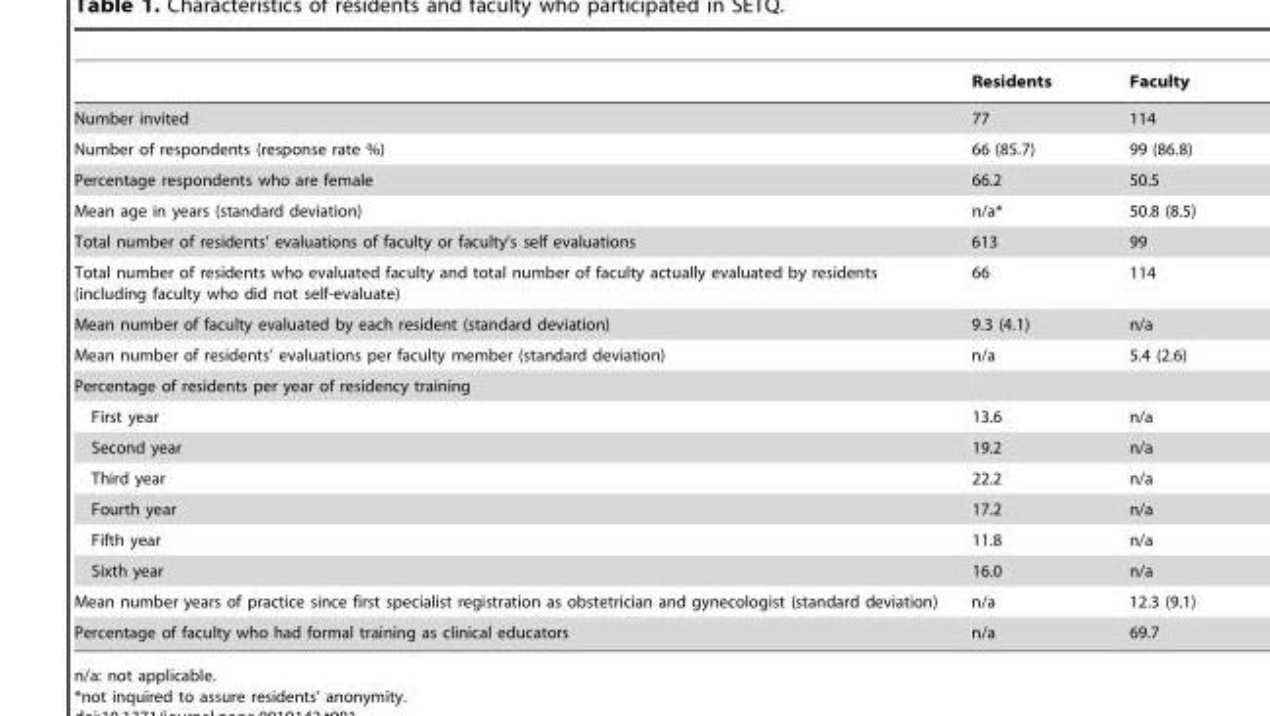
<table><thead><tr><td></td><td>Residents</td><td>Faculty</td></tr></thead><tbody><tr><td>Number invited</td><td>77</td><td>114</td></tr><tr><td>Number of respondents (response rate %)</td><td>66 (85.7)</td><td>99 (86.8)</td></tr><tr><td>Percentage respondents who are female</td><td>66.2</td><td>50.5</td></tr><tr><td>Mean age in years (standard deviation)</td><td>n/a*</td><td>50.8 (8.5)</td></tr><tr><td>Total number of residents’ evaluations of faculty or faculty’s self evaluations</td><td>613</td><td>99</td></tr><tr><td>Total number of residents who evaluated faculty and total number of faculty actually evaluated by residents (including faculty who did not self-evaluate)</td><td>66</td><td>114</td></tr><tr><td>Mean number of faculty evaluated by each resident (standard deviation)</td><td>9.3 (4.1)</td><td>n/a</td></tr><tr><td>Mean number of residents’ evaluations per faculty member (standard deviation)</td><td>n/a</td><td>5.4 (2.6)</td></tr><tr><td colspan="3">Percentage of residents per year of residency training</td></tr><tr><td>First year</td><td>13.6</td><td>n/a</td></tr><tr><td>Second year</td><td>19.2</td><td>n/a</td></tr><tr><td>Third year</td><td>22.2</td><td>n/a</td></tr><tr><td>Fourth year</td><td>17.2</td><td>n/a</td></tr><tr><td>Fifth year</td><td>11.8</td><td>n/a</td></tr><tr><td>Sixth year</td><td>16.0</td><td>n/a</td></tr><tr><td>Mean number years of practice since first specialist registration as obstetrician and gynecologist (standard deviation)</td><td>n/a</td><td>12.3 (9.1)</td></tr><tr><td>Percentage of faculty who had formal training as clinical educators</td><td>n/a</td><td>69.7</td></tr></tbody></table>